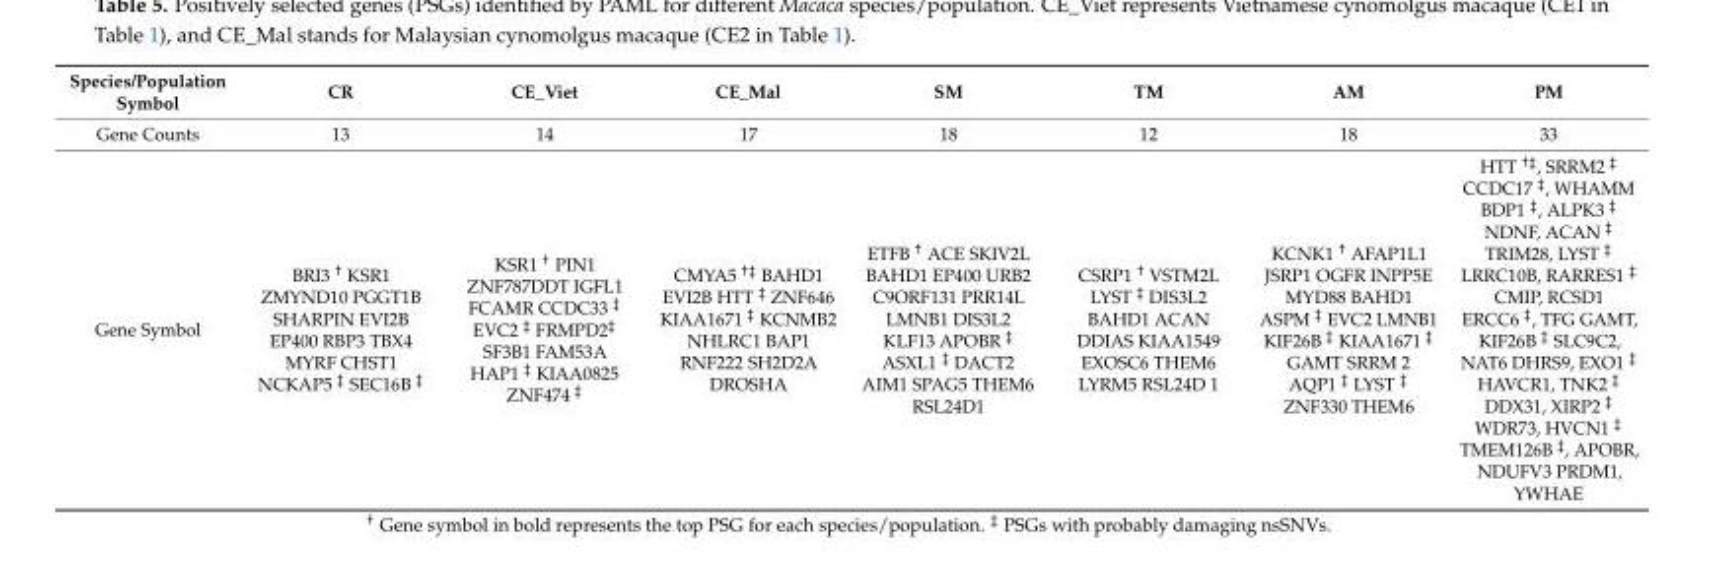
<table><thead><tr><td>Species/Population Symbol</td><td>CR</td><td>CE_Viet</td><td>CE_Mal</td><td>SM</td><td>TM</td><td>AM</td><td>PM</td></tr></thead><tbody><tr><td>Gene Counts</td><td>13</td><td>14</td><td>17</td><td>18</td><td>12</td><td>18</td><td>33</td></tr><tr><td>Gene Symbol</td><td>BRI3 <sup>†</sup> KSR1 ZMYND10 PGGT1B SHARPIN EVI2B EP400 RBP3 TBX4 MYRF CHST1 NCKAP5 <sup>‡</sup> SEC16B <sup>‡</sup></td><td>KSR1 <sup>†</sup> PIN1 ZNF787DDT IGFL1 FCAMR CCDC33 <sup>‡</sup> EVC2 <sup>‡</sup> FRMPD2<sup>‡</sup> SF3B1 FAM53A HAP1 <sup>‡</sup> KIAA0825 ZNF474 <sup>‡</sup></td><td>CMYA5 <sup>†‡</sup> BAHD1 EVI2B HTT <sup>‡</sup> ZNF646 KIAA1671 <sup>‡</sup> KCNMB2 NHLRC1 BAP1 RNF222 SH2D2A DROSHA</td><td>ETFB <sup>†</sup> ACE SKIV2L BAHD1 EP400 URB2 C9ORF131 PRR14L LMNB1 DIS3L2 KLF13 APOBR <sup>‡</sup> ASXL1 <sup>‡</sup> DACT2 AIM1 SPAG5 THEM6 RSL24D1</td><td>CSRP1 <sup>†</sup> VSTM2L LYST <sup>‡</sup> DIS3L2 BAHD1 ACAN DDIAS KIAA1549 EXOSC6 THEM6 LYRM5 RSL24D 1</td><td>KCNK1 <sup>†</sup> AFAP1L1 JSRP1 OGFR INPP5E MYD88 BAHD1 ASPM <sup>‡</sup> EVC2 LMNB1 KIF26B <sup>‡</sup> KIAA1671 <sup>‡</sup> GAMT SRRM 2 AQP1 <sup>‡</sup> LYST <sup>‡</sup> ZNF330 THEM6</td><td>HTT <sup>†‡</sup>, SRRM2 <sup>‡</sup> CCDC17 <sup>‡</sup>, WHAMM BDP1 <sup>‡</sup>, ALPK3 <sup>‡</sup> NDNF, ACAN <sup>‡</sup> TRIM28, LYST <sup>‡</sup> LRRC10B, RARRES1 <sup>‡</sup> CMIP, RCSD1 ERCC6 <sup>‡</sup>, TFG GAMT, KIF26B <sup>‡</sup> SLC9C2, NAT6 DHRS9, EXO1 <sup>‡</sup> HAVCR1, TNK2 <sup>‡</sup> DDX31, XIRP2 <sup>‡</sup> WDR73, HVCN1 <sup>‡</sup> TMEM126B <sup>‡</sup>, APOBR, NDUFV3 PRDM1, YWHAE</td></tr></tbody></table>